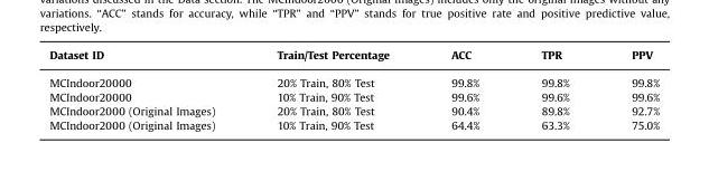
<table><thead><tr><td>Dataset ID</td><td>Train/Test Percentage</td><td>ACC</td><td>TPR</td><td>PPV</td></tr></thead><tbody><tr><td>MCIndoor20000</td><td>20% Train, 80% Test</td><td>99.8%</td><td>99.8%</td><td>99.8%</td></tr><tr><td>MCIndoor20000</td><td>10% Train, 90% Test</td><td>99.6%</td><td>99.6%</td><td>99.6%</td></tr><tr><td>MCIndoor2000 (Original Images)</td><td>20% Train, 80% Test</td><td>90.4%</td><td>89.8%</td><td>92.7%</td></tr><tr><td>MCIndoor2000 (Original Images)</td><td>10% Train, 90% Test</td><td>64.4%</td><td>63.3%</td><td>75.0%</td></tr></tbody></table>